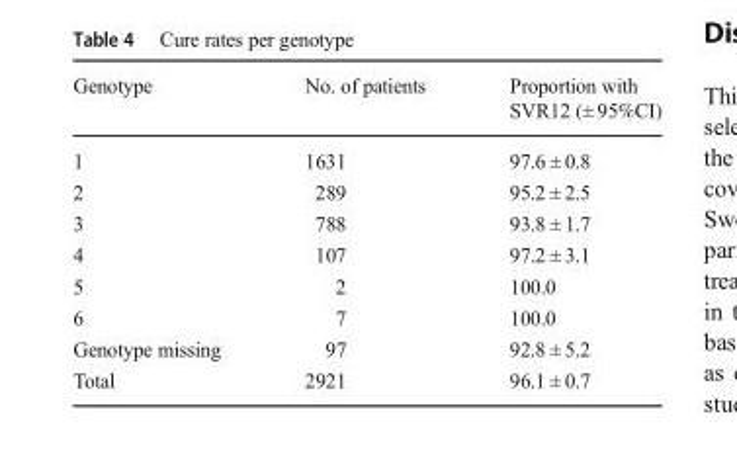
<table><thead><tr><td>Genotype</td><td>No. of patients</td><td>Proportion with SVR12 (± 95%CI)</td></tr></thead><tbody><tr><td>1</td><td>1631</td><td>97.6 ± 0.8</td></tr><tr><td>2</td><td>289</td><td>95.2 ± 2.5</td></tr><tr><td>3</td><td>788</td><td>93.8 ± 1.7</td></tr><tr><td>4</td><td>107</td><td>97.2 ± 3.1</td></tr><tr><td>5</td><td>2</td><td>100.0</td></tr><tr><td>6</td><td>7</td><td>100.0</td></tr><tr><td>Genotype missing</td><td>97</td><td>92.8 ± 5.2</td></tr><tr><td>Total</td><td>2921</td><td>96.1 ± 0.7</td></tr></tbody></table>